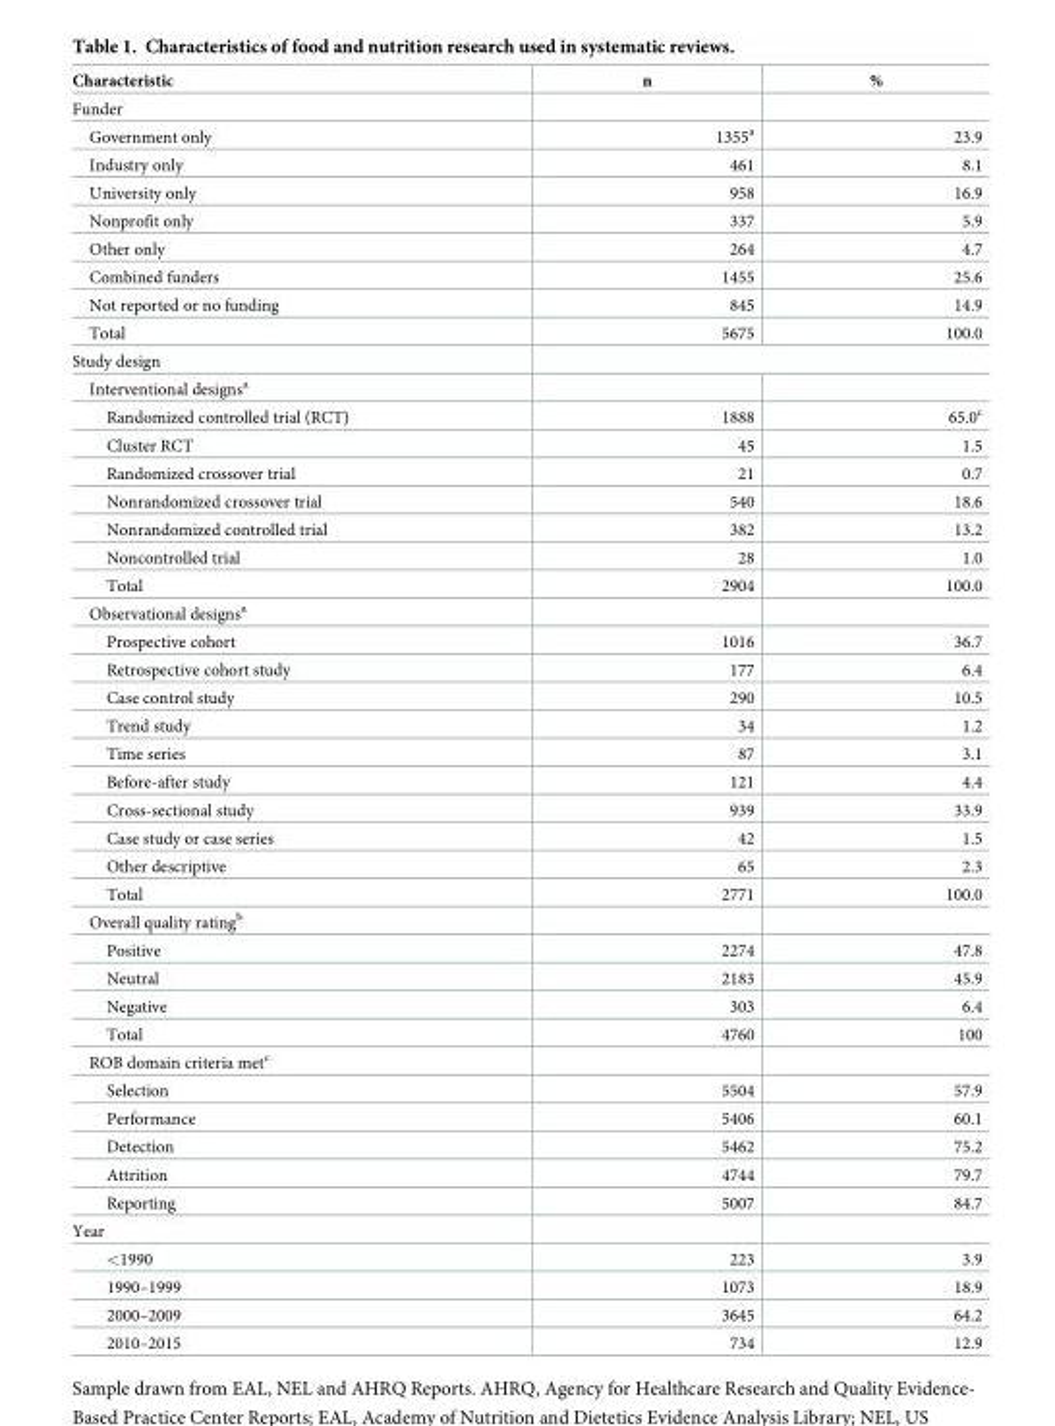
<table><thead><tr><td>Characteristic</td><td>n</td><td>%</td></tr></thead><tbody><tr><td colspan="3">Funder</td></tr><tr><td>Government only</td><td>1355<sup>a</sup></td><td>23.9</td></tr><tr><td>Industry only</td><td>461</td><td>8.1</td></tr><tr><td>University only</td><td>958</td><td>16.9</td></tr><tr><td>Nonprofit only</td><td>337</td><td>5.9</td></tr><tr><td>Other only</td><td>264</td><td>4.7</td></tr><tr><td>Combined funders</td><td>1455</td><td>25.6</td></tr><tr><td>Not reported or no funding</td><td>845</td><td>14.9</td></tr><tr><td>Total</td><td>5675</td><td>100.0</td></tr><tr><td colspan="3">Study design</td></tr><tr><td colspan="3">Interventional designs<sup>a</sup></td></tr><tr><td>Randomized controlled trial (RCT)</td><td>1888</td><td>65.0<sup>c</sup></td></tr><tr><td>Cluster RCT</td><td>45</td><td>1.5</td></tr><tr><td>Randomized crossover trial</td><td>21</td><td>0.7</td></tr><tr><td>Nonrandomized crossover trial</td><td>540</td><td>18.6</td></tr><tr><td>Nonrandomized controlled trial</td><td>382</td><td>13.2</td></tr><tr><td>Noncontrolled trial</td><td>28</td><td>1.0</td></tr><tr><td>Total</td><td>2904</td><td>100.0</td></tr><tr><td colspan="3">Observational designs<sup>a</sup></td></tr><tr><td>Prospective cohort</td><td>1016</td><td>36.7</td></tr><tr><td>Retrospective cohort study</td><td>177</td><td>6.4</td></tr><tr><td>Case control study</td><td>290</td><td>10.5</td></tr><tr><td>Trend study</td><td>34</td><td>1.2</td></tr><tr><td>Time series</td><td>87</td><td>3.1</td></tr><tr><td>Before-after study</td><td>121</td><td>4.4</td></tr><tr><td>Cross-sectional study</td><td>939</td><td>33.9</td></tr><tr><td>Case study or case series</td><td>42</td><td>1.5</td></tr><tr><td>Other descriptive</td><td>65</td><td>2.3</td></tr><tr><td>Total</td><td>2771</td><td>100.0</td></tr><tr><td colspan="3">Overall quality rating<sup>b</sup></td></tr><tr><td>Positive</td><td>2274</td><td>47.8</td></tr><tr><td>Neutral</td><td>2183</td><td>45.9</td></tr><tr><td>Negative</td><td>303</td><td>6.4</td></tr><tr><td>Total</td><td>4760</td><td>100</td></tr><tr><td colspan="3">ROB domain criteria met<sup>c</sup></td></tr><tr><td>Selection</td><td>5504</td><td>57.9</td></tr><tr><td>Performance</td><td>5406</td><td>60.1</td></tr><tr><td>Detection</td><td>5462</td><td>75.2</td></tr><tr><td>Attrition</td><td>4744</td><td>79.7</td></tr><tr><td>Reporting</td><td>5007</td><td>84.7</td></tr><tr><td colspan="3">Year</td></tr><tr><td>&lt;1990</td><td>223</td><td>3.9</td></tr><tr><td>1990–1999</td><td>1073</td><td>18.9</td></tr><tr><td>2000–2009</td><td>3645</td><td>64.2</td></tr><tr><td>2010–2015</td><td>734</td><td>12.9</td></tr></tbody></table>